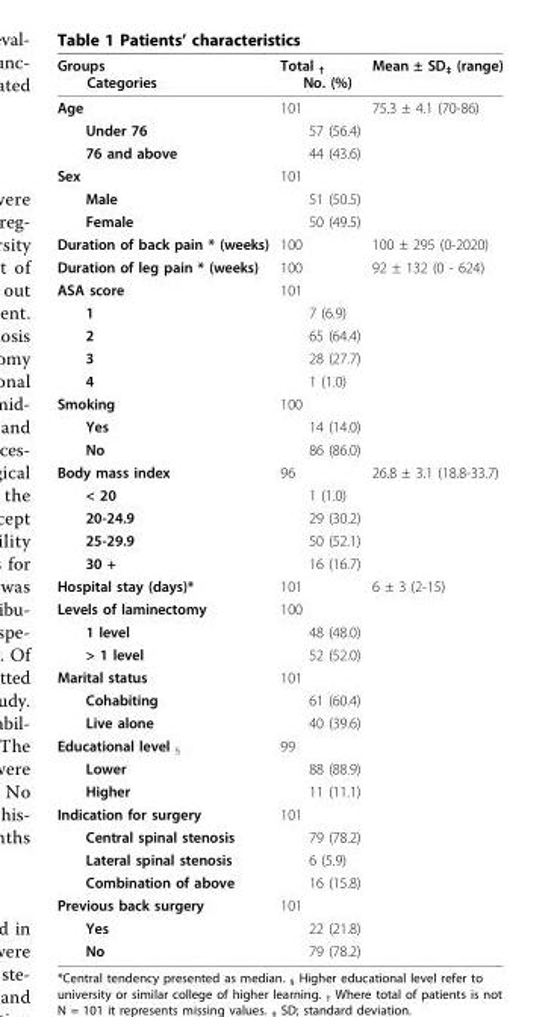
<table><thead><tr><td>Groups Categories</td><td>Total <sub>†</sub> No. (%)</td><td>Mean ± SD<sub>‡</sub> (range)</td></tr></thead><tbody><tr><td>Age</td><td>101</td><td>75.3 ± 4.1 (70-86)</td></tr><tr><td>Under 76</td><td>57 (56.4)</td><td></td></tr><tr><td>76 and above</td><td>44 (43.6)</td><td></td></tr><tr><td>Sex</td><td>101</td><td></td></tr><tr><td>Male</td><td>51 (50.5)</td><td></td></tr><tr><td>Female</td><td>50 (49.5)</td><td></td></tr><tr><td>Duration of back pain * (weeks)</td><td>100</td><td>100 ± 295 (0-2020)</td></tr><tr><td>Duration of leg pain * (weeks)</td><td>100</td><td>92 ± 132 (0 - 624)</td></tr><tr><td>ASA score</td><td>101</td><td></td></tr><tr><td>1</td><td>7 (6.9)</td><td></td></tr><tr><td>2</td><td>65 (64.4)</td><td></td></tr><tr><td>3</td><td>28 (27.7)</td><td></td></tr><tr><td>4</td><td>1 (1.0)</td><td></td></tr><tr><td>Smoking</td><td>100</td><td></td></tr><tr><td>Yes</td><td>14 (14.0)</td><td></td></tr><tr><td>No</td><td>86 (86.0)</td><td></td></tr><tr><td>Body mass index</td><td>96</td><td>26.8 ± 3.1 (18.8-33.7)</td></tr><tr><td>&lt; 20</td><td>1 (1.0)</td><td></td></tr><tr><td>20-24.9</td><td>29 (30.2)</td><td></td></tr><tr><td>25-29.9</td><td>50 (52.1)</td><td></td></tr><tr><td>30 +</td><td>16 (16.7)</td><td></td></tr><tr><td>Hospital stay (days)*</td><td>101</td><td>6 ± 3 (2-15)</td></tr><tr><td>Levels of laminectomy</td><td>100</td><td></td></tr><tr><td>1 level</td><td>48 (48.0)</td><td></td></tr><tr><td>&gt; 1 level</td><td>52 (52.0)</td><td></td></tr><tr><td>Marital status</td><td>101</td><td></td></tr><tr><td>Cohabiting</td><td>61 (60.4)</td><td></td></tr><tr><td>Live alone</td><td>40 (39.6)</td><td></td></tr><tr><td>Educational level <sub>§</sub></td><td>99</td><td></td></tr><tr><td>Lower</td><td>88 (88.9)</td><td></td></tr><tr><td>Higher</td><td>11 (11.1)</td><td></td></tr><tr><td>Indication for surgery</td><td>101</td><td></td></tr><tr><td>Central spinal stenosis</td><td>79 (78.2)</td><td></td></tr><tr><td>Lateral spinal stenosis</td><td>6 (5.9)</td><td></td></tr><tr><td>Combination of above</td><td>16 (15.8)</td><td></td></tr><tr><td>Previous back surgery</td><td>101</td><td></td></tr><tr><td>Yes</td><td>22 (21.8)</td><td></td></tr><tr><td>No</td><td>79 (78.2)</td><td></td></tr></tbody></table>